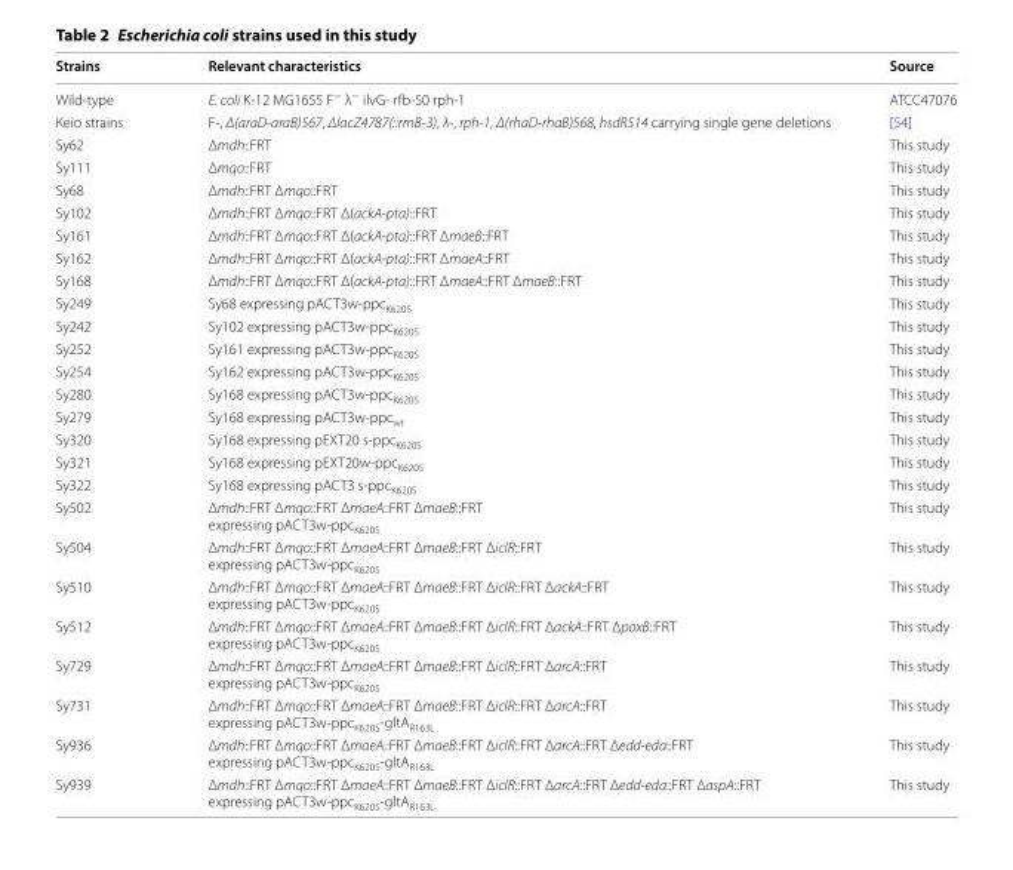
<table><thead><tr><td>Strains</td><td>Relevant characteristics</td><td>Source</td></tr></thead><tbody><tr><td>Wild‑type</td><td>E. coli K‑12 MG1655 F<sup>−</sup> λ<sup>−</sup> ilvG‑ rfb‑50 rph‑1</td><td>ATCC47076</td></tr><tr><td>Keio strains</td><td>F‑, Δ(araD‑araB)567, ΔlacZ4787(::rrnB‑3), λ‑, rph‑1, Δ(rhaD‑rhaB)568, hsdR514 carrying single gene deletions</td><td>[54]</td></tr><tr><td>Sy62</td><td>Δmdh::FRT</td><td>This study</td></tr><tr><td>Sy111</td><td>Δmqo::FRT</td><td>This study</td></tr><tr><td>Sy68</td><td>Δmdh::FRT Δmqo::FRT</td><td>This study</td></tr><tr><td>Sy102</td><td>Δmdh::FRT Δmqo::FRT Δ(ackA‑pta)::FRT</td><td>This study</td></tr><tr><td>Sy161</td><td>Δmdh::FRT Δmqo::FRT Δ(ackA‑pta)::FRT ΔmaeB::FRT</td><td>This study</td></tr><tr><td>Sy162</td><td>Δmdh::FRT Δmqo::FRT Δ(ackA‑pta)::FRT ΔmaeA::FRT</td><td>This study</td></tr><tr><td>Sy168</td><td>Δmdh::FRT Δmqo::FRT Δ(ackA‑pta)::FRT ΔmaeA::FRT ΔmaeB::FRT</td><td>This study</td></tr><tr><td>Sy249</td><td>Sy68 expressing pACT3w‑ppc<sub>K620S</sub></td><td>This study</td></tr><tr><td>Sy242</td><td>Sy102 expressing pACT3w‑ppc<sub>K620S</sub></td><td>This study</td></tr><tr><td>Sy252</td><td>Sy161 expressing pACT3w‑ppc<sub>K620S</sub></td><td>This study</td></tr><tr><td>Sy254</td><td>Sy162 expressing pACT3w‑ppc<sub>K620S</sub></td><td>This study</td></tr><tr><td>Sy280</td><td>Sy168 expressing pACT3w‑ppc<sub>K620S</sub></td><td>This study</td></tr><tr><td>Sy279</td><td>Sy168 expressing pACT3w‑ppc<sub>wt</sub></td><td>This study</td></tr><tr><td>Sy320</td><td>Sy168 expressing pEXT20 s‑ppc<sub>K620S</sub></td><td>This study</td></tr><tr><td>Sy321</td><td>Sy168 expressing pEXT20w‑ppc<sub>K620S</sub></td><td>This study</td></tr><tr><td>Sy322</td><td>Sy168 expressing pACT3 s‑ppc<sub>K620S</sub></td><td>This study</td></tr><tr><td>Sy502</td><td>Δmdh::FRT Δmqo::FRT ΔmaeA::FRT ΔmaeB::FRT expressing pACT3w‑ppc<sub>K620S</sub></td><td>This study</td></tr><tr><td>Sy504</td><td>Δmdh::FRT Δmqo::FRT ΔmaeA::FRT ΔmaeB::FRT ΔiclR::FRT expressing pACT3w‑ppc<sub>K620S</sub></td><td>This study</td></tr><tr><td>Sy510</td><td>Δmdh::FRT Δmqo::FRT ΔmaeA::FRT ΔmaeB::FRT ΔiclR::FRT ΔackA::FRT expressing pACT3w‑ppc<sub>K620S</sub></td><td>This study</td></tr><tr><td>Sy512</td><td>Δmdh::FRT Δmqo::FRT ΔmaeA::FRT ΔmaeB::FRT ΔiclR::FRT ΔackA::FRT ΔpoxB::FRT expressing pACT3w‑ppc<sub>K620S</sub></td><td>This study</td></tr><tr><td>Sy729</td><td>Δmdh::FRT Δmqo::FRT ΔmaeA::FRT ΔmaeB::FRT ΔiclR::FRT ΔarcA::FRT expressing pACT3w‑ppc<sub>K620S</sub></td><td>This study</td></tr><tr><td>Sy731</td><td>Δmdh::FRT Δmqo::FRT ΔmaeA::FRT ΔmaeB::FRT ΔiclR::FRT ΔarcA::FRT expressing pACT3w‑ppc<sub>K620S</sub>‑gltA<sub>R163L</sub></td><td>This study</td></tr><tr><td>Sy936</td><td>Δmdh::FRT Δmqo::FRT ΔmaeA::FRT ΔmaeB::FRT ΔiclR::FRT ΔarcA::FRT Δedd‑eda::FRT expressing pACT3w‑ppc<sub>K620S</sub>‑gltA<sub>R163L</sub></td><td>This study</td></tr><tr><td>Sy939</td><td>Δmdh::FRT Δmqo::FRT ΔmaeA::FRT ΔmaeB::FRT ΔiclR::FRT ΔarcA::FRT Δedd‑eda::FRT ΔaspA::FRT expressing pACT3w‑ppc<sub>K620S</sub>‑gltA<sub>R163L</sub></td><td>This study</td></tr></tbody></table>